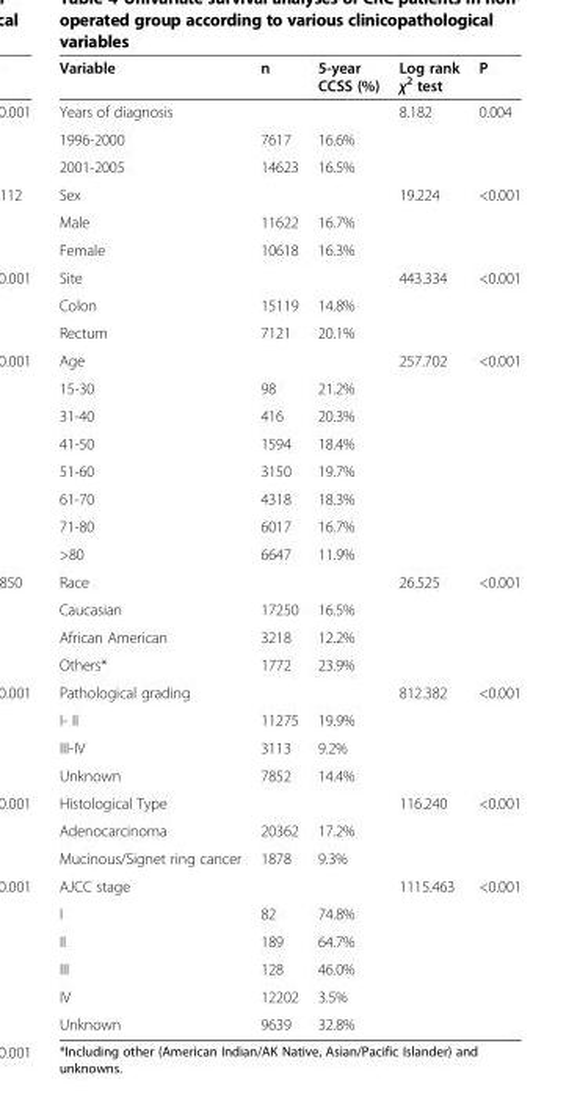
<table><thead><tr><td>Variable</td><td>n</td><td>5-year CCSS (%)</td><td>Log rank χ<sup>2</sup> test</td><td>P</td></tr></thead><tbody><tr><td>Years of diagnosis</td><td></td><td></td><td>8.182</td><td>0.004</td></tr><tr><td>1996-2000</td><td>7617</td><td>16.6%</td><td></td><td></td></tr><tr><td>2001-2005</td><td>14623</td><td>16.5%</td><td></td><td></td></tr><tr><td>Sex</td><td></td><td></td><td>19.224</td><td>&lt;0.001</td></tr><tr><td>Male</td><td>11622</td><td>16.7%</td><td></td><td></td></tr><tr><td>Female</td><td>10618</td><td>16.3%</td><td></td><td></td></tr><tr><td>Site</td><td></td><td></td><td>443.334</td><td>&lt;0.001</td></tr><tr><td>Colon</td><td>15119</td><td>14.8%</td><td></td><td></td></tr><tr><td>Rectum</td><td>7121</td><td>20.1%</td><td></td><td></td></tr><tr><td>Age</td><td></td><td></td><td>257.702</td><td>&lt;0.001</td></tr><tr><td>15-30</td><td>98</td><td>21.2%</td><td></td><td></td></tr><tr><td>31-40</td><td>416</td><td>20.3%</td><td></td><td></td></tr><tr><td>41-50</td><td>1594</td><td>18.4%</td><td></td><td></td></tr><tr><td>51-60</td><td>3150</td><td>19.7%</td><td></td><td></td></tr><tr><td>61-70</td><td>4318</td><td>18.3%</td><td></td><td></td></tr><tr><td>71-80</td><td>6017</td><td>16.7%</td><td></td><td></td></tr><tr><td>&gt;80</td><td>6647</td><td>11.9%</td><td></td><td></td></tr><tr><td>Race</td><td></td><td></td><td>26.525</td><td>&lt;0.001</td></tr><tr><td>Caucasian</td><td>17250</td><td>16.5%</td><td></td><td></td></tr><tr><td>African American</td><td>3218</td><td>12.2%</td><td></td><td></td></tr><tr><td>Others*</td><td>1772</td><td>23.9%</td><td></td><td></td></tr><tr><td>Pathological grading</td><td></td><td></td><td>812.382</td><td>&lt;0.001</td></tr><tr><td>I- II</td><td>11275</td><td>19.9%</td><td></td><td></td></tr><tr><td>III-IV</td><td>3113</td><td>9.2%</td><td></td><td></td></tr><tr><td>Unknown</td><td>7852</td><td>14.4%</td><td></td><td></td></tr><tr><td>Histological Type</td><td></td><td></td><td>116.240</td><td>&lt;0.001</td></tr><tr><td>Adenocarcinoma</td><td>20362</td><td>17.2%</td><td></td><td></td></tr><tr><td>Mucinous/Signet ring cancer</td><td>1878</td><td>9.3%</td><td></td><td></td></tr><tr><td>AJCC stage</td><td></td><td></td><td>1115.463</td><td>&lt;0.001</td></tr><tr><td>I</td><td>82</td><td>74.8%</td><td></td><td></td></tr><tr><td>II</td><td>189</td><td>64.7%</td><td></td><td></td></tr><tr><td>III</td><td>128</td><td>46.0%</td><td></td><td></td></tr><tr><td>IV</td><td>12202</td><td>3.5%</td><td></td><td></td></tr><tr><td>Unknown</td><td>9639</td><td>32.8%</td><td></td><td></td></tr></tbody></table>